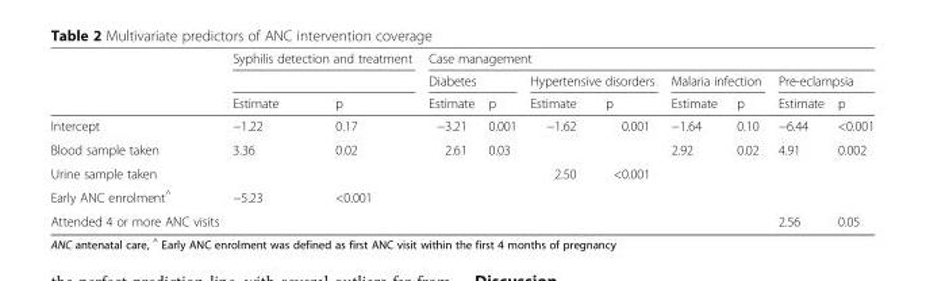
<table><thead><tr><td rowspan="3"></td><td colspan="2">Syphilis detection and treatment</td><td colspan="8">Case management</td></tr><tr><td rowspan="2">Estimate</td><td rowspan="2">p</td><td colspan="2">Diabetes</td><td colspan="2">Hypertensive disorders</td><td colspan="2">Malaria infection</td><td colspan="2">Pre-eclampsia</td></tr><tr><td>Estimate</td><td>p</td><td>Estimate</td><td>p</td><td>Estimate</td><td>p</td><td>Estimate</td><td>p</td></tr></thead><tbody><tr><td>Intercept</td><td>−1.22</td><td>0.17</td><td>−3.21</td><td>0.001</td><td>−1.62</td><td>0.001</td><td>−1.64</td><td>0.10</td><td>−6.44</td><td>&lt;0.001</td></tr><tr><td>Blood sample taken</td><td>3.36</td><td>0.02</td><td>2.61</td><td>0.03</td><td></td><td></td><td>2.92</td><td>0.02</td><td>4.91</td><td>0.002</td></tr><tr><td>Urine sample taken</td><td></td><td></td><td></td><td></td><td>2.50</td><td>&lt;0.001</td><td></td><td></td><td></td><td></td></tr><tr><td>Early ANC enrolment<sup>^</sup></td><td>−5.23</td><td>&lt;0.001</td><td></td><td></td><td></td><td></td><td></td><td></td><td></td><td></td></tr><tr><td>Attended 4 or more ANC visits</td><td></td><td></td><td></td><td></td><td></td><td></td><td></td><td></td><td>2.56</td><td>0.05</td></tr></tbody></table>